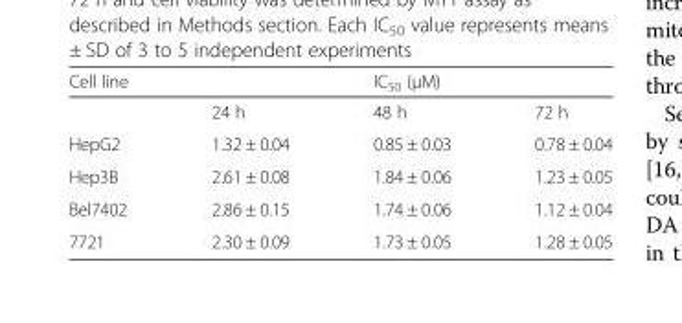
<table><thead><tr><td>Cell line</td><td></td><td>IC<sub>50</sub> (μM)</td><td></td></tr></thead><tbody><tr><td></td><td>24 h</td><td>48 h</td><td>72 h</td></tr><tr><td>HepG2</td><td>1.32 ± 0.04</td><td>0.85 ± 0.03</td><td>0.78 ± 0.04</td></tr><tr><td>Hep3B</td><td>2.61 ± 0.08</td><td>1.84 ± 0.06</td><td>1.23 ± 0.05</td></tr><tr><td>Bel7402</td><td>2.86 ± 0.15</td><td>1.74 ± 0.06</td><td>1.12 ± 0.04</td></tr><tr><td>7721</td><td>2.30 ± 0.09</td><td>1.73 ± 0.05</td><td>1.28 ± 0.05</td></tr></tbody></table>